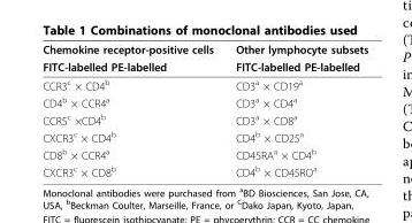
<table><thead><tr><td rowspan="2">Chemokine receptor-positive cells FITC-labelled PE-labelled</td><td rowspan="2">Other lymphocyte subsets FITC-labelled PE-labelled</td></tr><tr></tr></thead><tbody><tr><td>CCR3<sup>c</sup> × CD4<sup>b</sup></td><td>CD3<sup>a</sup> × CD19<sup>a</sup></td></tr><tr><td>CD4<sup>b</sup> × CCR4<sup>a</sup></td><td>CD3<sup>a</sup> × CD4<sup>a</sup></td></tr><tr><td>CCR5<sup>c</sup> ×CD4<sup>b</sup></td><td>CD3<sup>a</sup> × CD8<sup>a</sup></td></tr><tr><td>CXCR3<sup>c</sup> × CD4<sup>b</sup></td><td>CD4<sup>b</sup> × CD25<sup>a</sup></td></tr><tr><td>CD8<sup>b</sup> × CCR4<sup>a</sup></td><td>CD45RA<sup>a</sup> × CD4<sup>b</sup></td></tr><tr><td>CXCR3<sup>c</sup> × CD8<sup>b</sup></td><td>CD4<sup>b</sup> × CD45RO<sup>a</sup></td></tr></tbody></table>